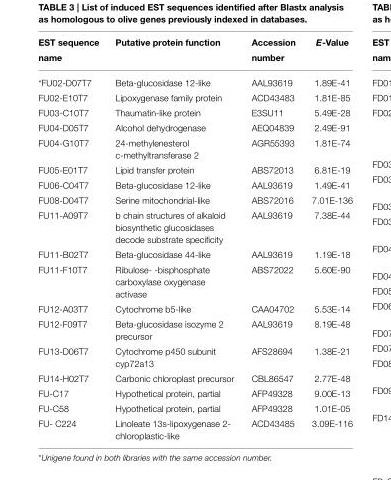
<table><thead><tr><td>EST sequence name</td><td>Putative protein function</td><td>Accession number</td><td>E-Value</td></tr></thead><tbody><tr><td>*FU02-D07T7</td><td>Beta-glucosidase 12-like</td><td>AAL93619</td><td>1.89E-41</td></tr><tr><td>FU02-E10T7</td><td>Lipoxygenase family protein</td><td>ACD43483</td><td>1.81E-85</td></tr><tr><td>FU03-C10T7</td><td>Thaumatin-like protein</td><td>E3SU11</td><td>5.49E-28</td></tr><tr><td>FU04-D05T7</td><td>Alcohol dehydrogenase</td><td>AEQ04839</td><td>2.49E-91</td></tr><tr><td>FU04-G10T7</td><td>24-methylenesterol c-methyltransferase 2</td><td>AGR55393</td><td>1.81E-74</td></tr><tr><td>FU05-E01T7</td><td>Lipid transfer protein</td><td>ABS72013</td><td>6.81E-19</td></tr><tr><td>FU06-C04T7</td><td>Beta-glucosidase 12-like</td><td>AAL93619</td><td>1.49E-41</td></tr><tr><td>FU08-D04T7</td><td>Serine mitochondrial-like</td><td>ABS72016</td><td>7.01E-136</td></tr><tr><td>FU11-A09T7</td><td>b chain structures of alkaloid biosynthetic glucosidases decode substrate specificity</td><td>AAL93619</td><td>7.38E-44</td></tr><tr><td>FU11-B02T7</td><td>Beta-glucosidase 44-like</td><td>AAL93619</td><td>1.19E-18</td></tr><tr><td>FU11-F10T7</td><td>Ribulose- -bisphosphate carboxylase oxygenase activase</td><td>ABS72022</td><td>5.60E-90</td></tr><tr><td>FU12-A03T7</td><td>Cytochrome b5-like</td><td>CAA04702</td><td>5.53E-14</td></tr><tr><td>FU12-F09T7</td><td>Beta-glucosidase isozyme 2 precursor</td><td>AAL93619</td><td>8.19E-48</td></tr><tr><td>FU13-D06T7</td><td>Cytochrome p450 subunit cyp72a13</td><td>AFS28694</td><td>1.38E-21</td></tr><tr><td>FU14-H02T7</td><td>Carbonic chloroplast precursor</td><td>CBL86547</td><td>2.77E-48</td></tr><tr><td>FU-C17</td><td>Hypothetical protein, partial</td><td>AFP49328</td><td>9.00E-13</td></tr><tr><td>FU-C58</td><td>Hypothetical protein, partial</td><td>AFP49328</td><td>1.01E-05</td></tr><tr><td>FU- C224</td><td>Linoleate 13s-lipoxygenase 2- chloroplastic-like</td><td>ACD43485</td><td>3.09E-116</td></tr></tbody></table>